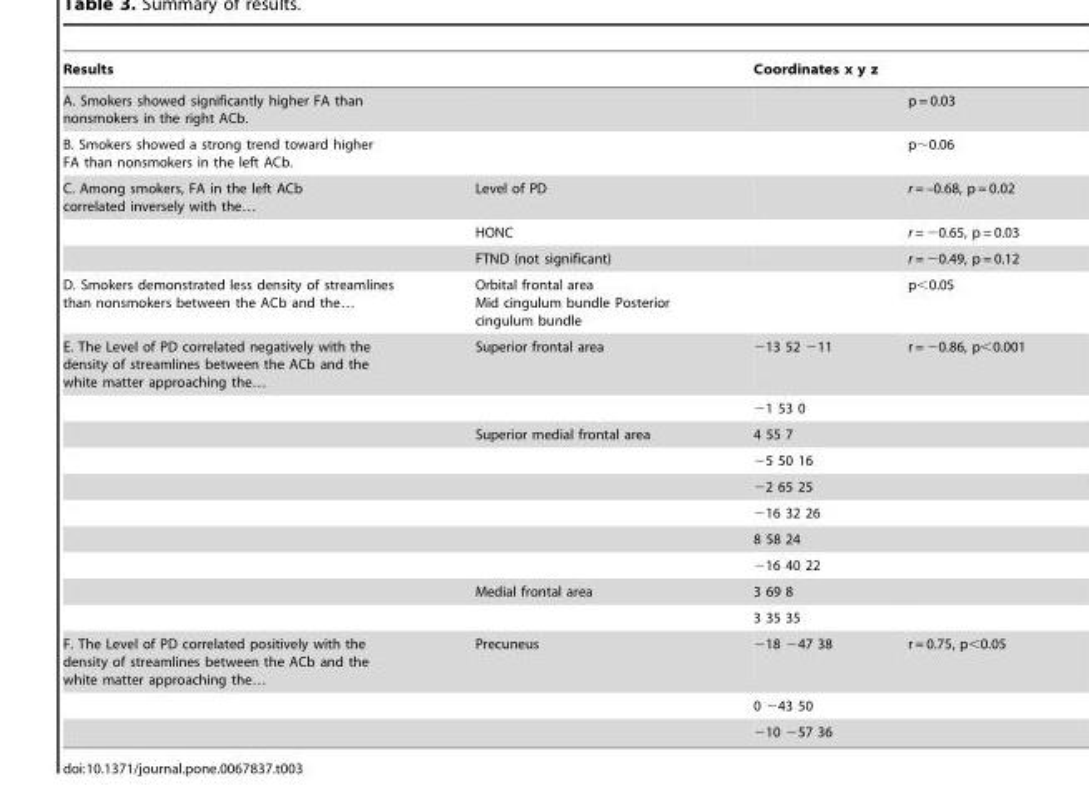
<table><thead><tr><td>Results</td><td></td><td>Coordinates x y z</td><td></td></tr></thead><tbody><tr><td>A. Smokers showed significantly higher FA than nonsmokers in the right ACb.</td><td></td><td></td><td>p = 0.03</td></tr><tr><td>B. Smokers showed a strong trend toward higher FA than nonsmokers in the left ACb.</td><td></td><td></td><td>p∼0.06</td></tr><tr><td rowspan="3">C. Among smokers, FA in the left ACb correlated inversely with the…</td><td>Level of PD</td><td></td><td>r = –0.68, p = 0.02</td></tr><tr><td>HONC</td><td></td><td>r = −0.65, p = 0.03</td></tr><tr><td>FTND (not significant)</td><td></td><td>r = −0.49, p = 0.12</td></tr><tr><td>D. Smokers demonstrated less density of streamlines than nonsmokers between the ACb and the…</td><td>Orbital frontal area Mid cingulum bundle Posterior cingulum bundle</td><td></td><td>p&lt;0.05</td></tr><tr><td rowspan="10">E. The Level of PD correlated negatively with the density of streamlines between the ACb and the white matter approaching the…</td><td>Superior frontal area</td><td>−13 52 −11</td><td>r = −0.86, p&lt;0.001</td></tr><tr><td></td><td>−1 53 0</td><td></td></tr><tr><td>Superior medial frontal area</td><td>4 55 7</td><td></td></tr><tr><td></td><td>−5 50 16</td><td></td></tr><tr><td></td><td>−2 65 25</td><td></td></tr><tr><td></td><td>−16 32 26</td><td></td></tr><tr><td></td><td>8 58 24</td><td></td></tr><tr><td></td><td>−16 40 22</td><td></td></tr><tr><td>Medial frontal area</td><td>3 69 8</td><td></td></tr><tr><td></td><td>3 35 35</td><td></td></tr><tr><td rowspan="3">F. The Level of PD correlated positively with the density of streamlines between the ACb and the white matter approaching the…</td><td>Precuneus</td><td>−18 −47 38</td><td>r = 0.75, p&lt;0.05</td></tr><tr><td></td><td>0 −43 50</td><td></td></tr><tr><td></td><td>−10 −57 36</td><td></td></tr></tbody></table>